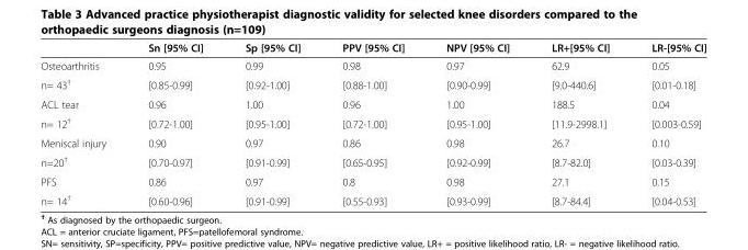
<table><thead><tr><td></td><td>Sn [95% CI]</td><td>Sp [95% CI]</td><td>PPV [95% CI]</td><td>NPV [95% CI]</td><td>LR+[95% CI]</td><td>LR-[95% CI]</td></tr></thead><tbody><tr><td>Osteoarthritis</td><td>0.95</td><td>0.99</td><td>0.98</td><td>0.97</td><td>62.9</td><td>0.05</td></tr><tr><td>n= 43<sup>†</sup></td><td>[0.85-0.99]</td><td>[0.92-1.00]</td><td>[0.88-1.00]</td><td>[0.90-0.99]</td><td>[9.0-440.6]</td><td>[0.01-0.18]</td></tr><tr><td>ACL tear</td><td>0.96</td><td>1.00</td><td>0.96</td><td>1.00</td><td>188.5</td><td>0.04</td></tr><tr><td>n= 12<sup>†</sup></td><td>[0.72-1.00]</td><td>[0.95-1.00]</td><td>[0.72-1.00]</td><td>[0.95-1.00]</td><td>[11.9-2998.1]</td><td>[0.003-0.59]</td></tr><tr><td>Meniscal injury</td><td>0.90</td><td>0.97</td><td>0.86</td><td>0.98</td><td>26.7</td><td>0.10</td></tr><tr><td>n=20<sup>†</sup></td><td>[0.70-0.97]</td><td>[0.91-0.99]</td><td>[0.65-0.95]</td><td>[0.92-0.99]</td><td>[8.7-82.0]</td><td>[0.03-0.39]</td></tr><tr><td>PFS</td><td>0.86</td><td>0.97</td><td>0.8</td><td>0.98</td><td>27.1</td><td>0.15</td></tr><tr><td>n= 14<sup>†</sup></td><td>[0.60-0.96]</td><td>[0.91-0.99]</td><td>[0.55-0.93]</td><td>[0.93-0.99]</td><td>[8.7-84.4]</td><td>[0.04-0.53]</td></tr></tbody></table>